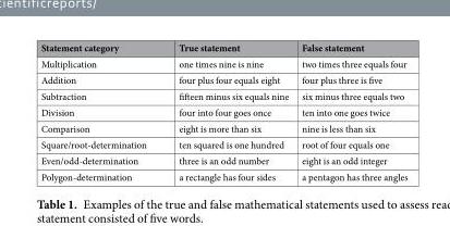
<table><thead><tr><td>Statement category</td><td>True statement</td><td>False statement</td></tr></thead><tbody><tr><td>Multiplication</td><td>one times nine is nine</td><td>two times three equals four</td></tr><tr><td>Addition</td><td>four plus four equals eight</td><td>four plus three is five</td></tr><tr><td>Subtraction</td><td>fifteen minus six equals nine</td><td>six minus three equals two</td></tr><tr><td>Division</td><td>four into four goes once</td><td>ten into one goes twice</td></tr><tr><td>Comparison</td><td>eight is more than six</td><td>nine is less than six</td></tr><tr><td>Square/root-determination</td><td>ten squared is one hundred</td><td>root of four equals one</td></tr><tr><td>Even/odd-determination</td><td>three is an odd number</td><td>eight is an odd integer</td></tr><tr><td>Polygon-determination</td><td>a rectangle has four sides</td><td>a pentagon has three angles</td></tr></tbody></table>